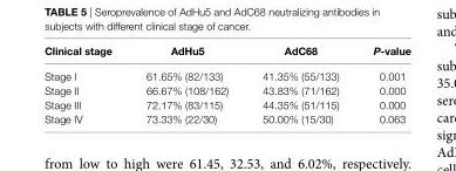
<table><thead><tr><td>clinical stage</td><td>adhu5</td><td>adc68</td><td>P-value</td></tr></thead><tbody><tr><td>Stage I</td><td>61.65% (82/133)</td><td>41.35% (55/133)</td><td>0.001</td></tr><tr><td>Stage II</td><td>66.67% (108/162)</td><td>43.83% (71/162)</td><td>0.000</td></tr><tr><td>Stage III</td><td>72.17% (83/115)</td><td>44.35% (51/115)</td><td>0.000</td></tr><tr><td>Stage IV</td><td>73.33% (22/30)</td><td>50.00% (15/30)</td><td>0.063</td></tr></tbody></table>